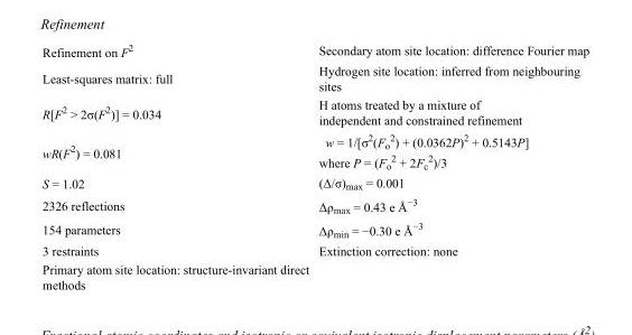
<table><tbody><tr><td>Refinement on F<sup>2</sup></td><td>Secondary atom site location: difference Fourier map</td></tr><tr><td>Least-squares matrix: full</td><td>Hydrogen site location: inferred from neighbouring sites</td></tr><tr><td>R[F<sup>2</sup> &gt; 2σ(F<sup>2</sup>)] = 0.034</td><td>H atoms treated by a mixture of independent and constrained refinement</td></tr><tr><td>wR(F<sup>2</sup>) = 0.081</td><td>w = 1/[σ<sup>2</sup>(F<sub>o</sub> <sup>2</sup>) + (0.0362P)<sup>2</sup> + 0.5143P] where P = (F<sub>o</sub> <sup>2</sup> + 2F<sub>c</sub> <sup>2</sup>)/3</td></tr><tr><td>S = 1.02</td><td>(Δ/σ)<sub>max</sub> = 0.001</td></tr><tr><td>2326 reflections</td><td>Δρ<sub>max</sub> = 0.43 e Å<sup>−3</sup></td></tr><tr><td>154 parameters</td><td>Δρ<sub>min</sub> = −0.30 e Å<sup>−3</sup></td></tr><tr><td>3 restraints</td><td>Extinction correction: none</td></tr><tr><td>Primary atom site location: structure-invariant direct methods</td><td></td></tr></tbody></table>